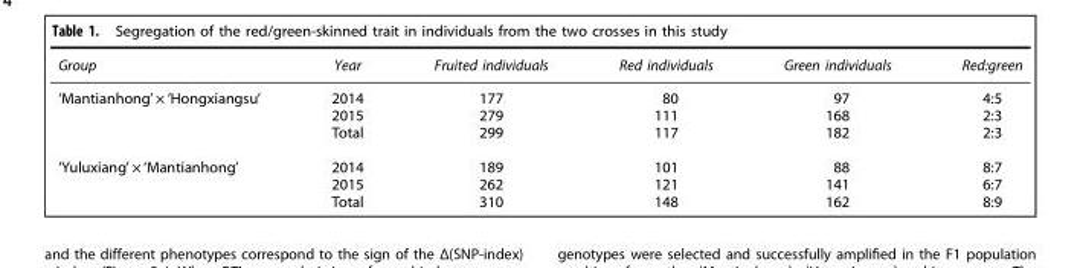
<table><thead><tr><td>Group</td><td>Year</td><td>Fruited individuals</td><td>Red individuals</td><td>Green individuals</td><td>Red:green</td></tr></thead><tbody><tr><td rowspan="3">‘Mantianhong’ × ‘Hongxiangsu’</td><td>2014</td><td>177</td><td>80</td><td>97</td><td>4:5</td></tr><tr><td>2015</td><td>279</td><td>111</td><td>168</td><td>2:3</td></tr><tr><td>Total</td><td>299</td><td>117</td><td>182</td><td>2:3</td></tr><tr><td rowspan="3">‘Yuluxiang’ × ‘Mantianhong’</td><td>2014</td><td>189</td><td>101</td><td>88</td><td>8:7</td></tr><tr><td>2015</td><td>262</td><td>121</td><td>141</td><td>6:7</td></tr><tr><td>Total</td><td>310</td><td>148</td><td>162</td><td>8:9</td></tr></tbody></table>